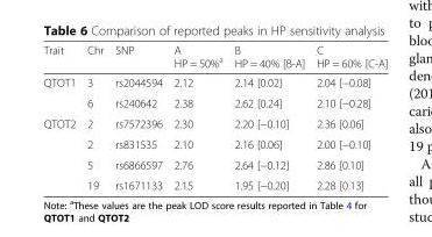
<table><thead><tr><td>Trait</td><td>Chr</td><td>SNP</td><td>A HP = 50%<sup>a</sup></td><td>B HP = 40% [B-A]</td><td>C HP = 60% [C-A]</td></tr></thead><tbody><tr><td rowspan="2">QTOT1</td><td>3</td><td>rs2044594</td><td>2.12</td><td>2.14 [0.02]</td><td>2.04 [−0.08]</td></tr><tr><td>6</td><td>rs240642</td><td>2.38</td><td>2.62 [0.24]</td><td>2.10 [−0.28]</td></tr><tr><td rowspan="4">QTOT2</td><td>2</td><td>rs7572396</td><td>2.30</td><td>2.20 [−0.10]</td><td>2.36 [0.06]</td></tr><tr><td>2</td><td>rs831535</td><td>2.10</td><td>2.16 [0.06]</td><td>2.00 [−0.10]</td></tr><tr><td>5</td><td>rs6866597</td><td>2.76</td><td>2.64 [−0.12]</td><td>2.86 [0.10]</td></tr><tr><td>19</td><td>rs1671133</td><td>2.15</td><td>1.95 [−0.20]</td><td>2.28 [0.13]</td></tr></tbody></table>